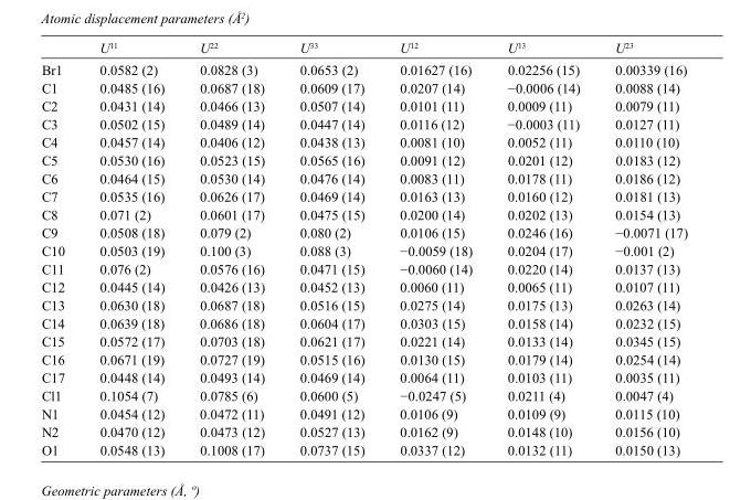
<table><thead><tr><td></td><td>U<sup>11</sup></td><td>U<sup>22</sup></td><td>U<sup>33</sup></td><td>U<sup>12</sup></td><td>U<sup>13</sup></td><td>U<sup>23</sup></td></tr></thead><tbody><tr><td>Br1</td><td>0.0582 (2)</td><td>0.0828 (3)</td><td>0.0653 (2)</td><td>0.01627 (16)</td><td>0.02256 (15)</td><td>0.00339 (16)</td></tr><tr><td>C1</td><td>0.0485 (16)</td><td>0.0687 (18)</td><td>0.0609 (17)</td><td>0.0207 (14)</td><td>−0.0006 (14)</td><td>0.0088 (14)</td></tr><tr><td>C2</td><td>0.0431 (14)</td><td>0.0466 (13)</td><td>0.0507 (14)</td><td>0.0101 (11)</td><td>0.0009 (11)</td><td>0.0079 (11)</td></tr><tr><td>C3</td><td>0.0502 (15)</td><td>0.0489 (14)</td><td>0.0447 (14)</td><td>0.0116 (12)</td><td>−0.0003 (11)</td><td>0.0127 (11)</td></tr><tr><td>C4</td><td>0.0457 (14)</td><td>0.0406 (12)</td><td>0.0438 (13)</td><td>0.0081 (10)</td><td>0.0052 (11)</td><td>0.0110 (10)</td></tr><tr><td>C5</td><td>0.0530 (16)</td><td>0.0523 (15)</td><td>0.0565 (16)</td><td>0.0091 (12)</td><td>0.0201 (12)</td><td>0.0183 (12)</td></tr><tr><td>C6</td><td>0.0464 (15)</td><td>0.0530 (14)</td><td>0.0476 (14)</td><td>0.0083 (11)</td><td>0.0178 (11)</td><td>0.0186 (12)</td></tr><tr><td>C7</td><td>0.0535 (16)</td><td>0.0626 (17)</td><td>0.0469 (14)</td><td>0.0163 (13)</td><td>0.0160 (12)</td><td>0.0181 (13)</td></tr><tr><td>C8</td><td>0.071 (2)</td><td>0.0601 (17)</td><td>0.0475 (15)</td><td>0.0200 (14)</td><td>0.0202 (13)</td><td>0.0154 (13)</td></tr><tr><td>C9</td><td>0.0508 (18)</td><td>0.079 (2)</td><td>0.080 (2)</td><td>0.0106 (15)</td><td>0.0246 (16)</td><td>−0.0071 (17)</td></tr><tr><td>C10</td><td>0.0503 (19)</td><td>0.100 (3)</td><td>0.088 (3)</td><td>−0.0059 (18)</td><td>0.0204 (17)</td><td>−0.001 (2)</td></tr><tr><td>C11</td><td>0.076 (2)</td><td>0.0576 (16)</td><td>0.0471 (15)</td><td>−0.0060 (14)</td><td>0.0220 (14)</td><td>0.0137 (13)</td></tr><tr><td>C12</td><td>0.0445 (14)</td><td>0.0426 (13)</td><td>0.0452 (13)</td><td>0.0060 (11)</td><td>0.0065 (11)</td><td>0.0107 (11)</td></tr><tr><td>C13</td><td>0.0630 (18)</td><td>0.0687 (18)</td><td>0.0516 (15)</td><td>0.0275 (14)</td><td>0.0175 (13)</td><td>0.0263 (14)</td></tr><tr><td>C14</td><td>0.0639 (18)</td><td>0.0686 (18)</td><td>0.0604 (17)</td><td>0.0303 (15)</td><td>0.0158 (14)</td><td>0.0232 (15)</td></tr><tr><td>C15</td><td>0.0572 (17)</td><td>0.0703 (18)</td><td>0.0621 (17)</td><td>0.0221 (14)</td><td>0.0133 (14)</td><td>0.0345 (15)</td></tr><tr><td>C16</td><td>0.0671 (19)</td><td>0.0727 (19)</td><td>0.0515 (16)</td><td>0.0130 (15)</td><td>0.0179 (14)</td><td>0.0254 (14)</td></tr><tr><td>C17</td><td>0.0448 (14)</td><td>0.0493 (14)</td><td>0.0469 (14)</td><td>0.0064 (11)</td><td>0.0103 (11)</td><td>0.0035 (11)</td></tr><tr><td>Cl1</td><td>0.1054 (7)</td><td>0.0785 (6)</td><td>0.0600 (5)</td><td>−0.0247 (5)</td><td>0.0211 (4)</td><td>0.0047 (4)</td></tr><tr><td>N1</td><td>0.0454 (12)</td><td>0.0472 (11)</td><td>0.0491 (12)</td><td>0.0106 (9)</td><td>0.0109 (9)</td><td>0.0115 (10)</td></tr><tr><td>N2</td><td>0.0470 (12)</td><td>0.0473 (12)</td><td>0.0527 (13)</td><td>0.0162 (9)</td><td>0.0148 (10)</td><td>0.0156 (10)</td></tr><tr><td>O1</td><td>0.0548 (13)</td><td>0.1008 (17)</td><td>0.0737 (15)</td><td>0.0337 (12)</td><td>0.0132 (11)</td><td>0.0150 (13)</td></tr></tbody></table>